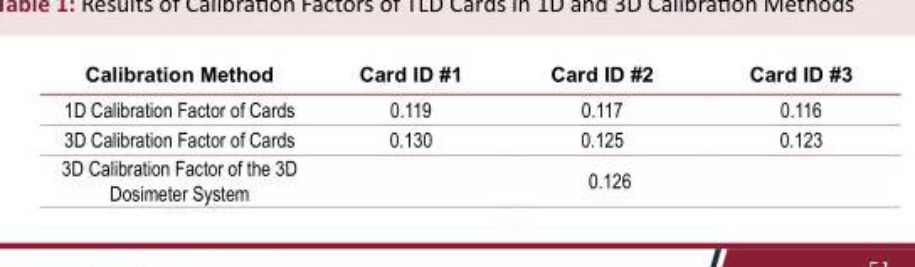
<table><thead><tr><td>Calibration Method</td><td>Card ID #1</td><td>Card ID #2</td><td>Card ID #3</td></tr></thead><tbody><tr><td>1D Calibration Factor of Cards</td><td>0.119</td><td>0.117</td><td>0.116</td></tr><tr><td>3D Calibration Factor of Cards</td><td>0.130</td><td>0.125</td><td>0.123</td></tr><tr><td>3D Calibration Factor of the 3D Dosimeter System</td><td colspan="3">0.126</td></tr></tbody></table>